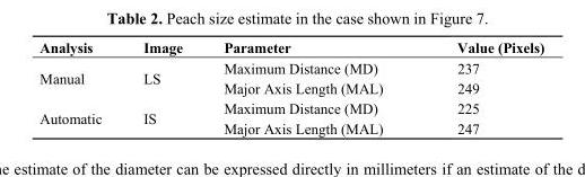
<table><thead><tr><td>Analysis</td><td>Image</td><td>Parameter</td><td>Value (Pixels)</td></tr></thead><tbody><tr><td rowspan="2">Manual</td><td rowspan="2">LS</td><td>Maximum Distance (MD)</td><td>237</td></tr><tr><td>Major Axis Length (MAL)</td><td>249</td></tr><tr><td rowspan="2">Automatic</td><td rowspan="2">IS</td><td>Maximum Distance (MD)</td><td>225</td></tr><tr><td>Major Axis Length (MAL)</td><td>247</td></tr></tbody></table>